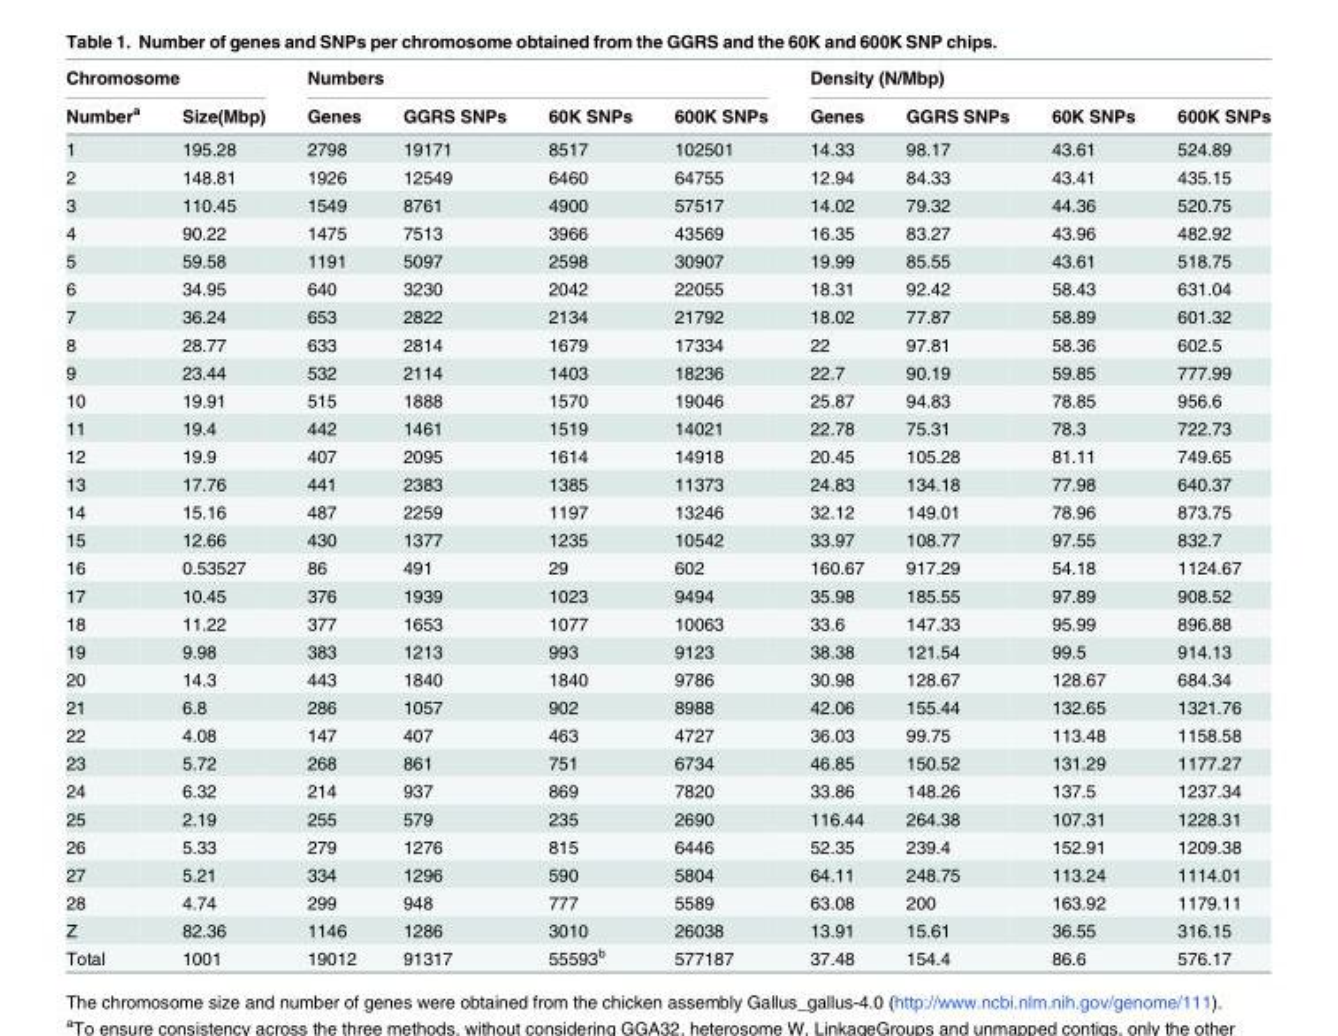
<table><thead><tr><td colspan="2">Chromosome</td><td colspan="4">Numbers</td><td colspan="4">Density (N/Mbp)</td></tr><tr><td>Number<sup>a</sup></td><td>Size(Mbp)</td><td>Genes</td><td>GGRS SNPs</td><td>60K SNPs</td><td>600K SNPs</td><td>Genes</td><td>GGRS SNPs</td><td>60K SNPs</td><td>600K SNPs</td></tr></thead><tbody><tr><td>1</td><td>195.28</td><td>2798</td><td>19171</td><td>8517</td><td>102501</td><td>14.33</td><td>98.17</td><td>43.61</td><td>524.89</td></tr><tr><td>2</td><td>148.81</td><td>1926</td><td>12549</td><td>6460</td><td>64755</td><td>12.94</td><td>84.33</td><td>43.41</td><td>435.15</td></tr><tr><td>3</td><td>110.45</td><td>1549</td><td>8761</td><td>4900</td><td>57517</td><td>14.02</td><td>79.32</td><td>44.36</td><td>520.75</td></tr><tr><td>4</td><td>90.22</td><td>1475</td><td>7513</td><td>3966</td><td>43569</td><td>16.35</td><td>83.27</td><td>43.96</td><td>482.92</td></tr><tr><td>5</td><td>59.58</td><td>1191</td><td>5097</td><td>2598</td><td>30907</td><td>19.99</td><td>85.55</td><td>43.61</td><td>518.75</td></tr><tr><td>6</td><td>34.95</td><td>640</td><td>3230</td><td>2042</td><td>22055</td><td>18.31</td><td>92.42</td><td>58.43</td><td>631.04</td></tr><tr><td>7</td><td>36.24</td><td>653</td><td>2822</td><td>2134</td><td>21792</td><td>18.02</td><td>77.87</td><td>58.89</td><td>601.32</td></tr><tr><td>8</td><td>28.77</td><td>633</td><td>2814</td><td>1679</td><td>17334</td><td>22</td><td>97.81</td><td>58.36</td><td>602.5</td></tr><tr><td>9</td><td>23.44</td><td>532</td><td>2114</td><td>1403</td><td>18236</td><td>22.7</td><td>90.19</td><td>59.85</td><td>777.99</td></tr><tr><td>10</td><td>19.91</td><td>515</td><td>1888</td><td>1570</td><td>19046</td><td>25.87</td><td>94.83</td><td>78.85</td><td>956.6</td></tr><tr><td>11</td><td>19.4</td><td>442</td><td>1461</td><td>1519</td><td>14021</td><td>22.78</td><td>75.31</td><td>78.3</td><td>722.73</td></tr><tr><td>12</td><td>19.9</td><td>407</td><td>2095</td><td>1614</td><td>14918</td><td>20.45</td><td>105.28</td><td>81.11</td><td>749.65</td></tr><tr><td>13</td><td>17.76</td><td>441</td><td>2383</td><td>1385</td><td>11373</td><td>24.83</td><td>134.18</td><td>77.98</td><td>640.37</td></tr><tr><td>14</td><td>15.16</td><td>487</td><td>2259</td><td>1197</td><td>13246</td><td>32.12</td><td>149.01</td><td>78.96</td><td>873.75</td></tr><tr><td>15</td><td>12.66</td><td>430</td><td>1377</td><td>1235</td><td>10542</td><td>33.97</td><td>108.77</td><td>97.55</td><td>832.7</td></tr><tr><td>16</td><td>0.53527</td><td>86</td><td>491</td><td>29</td><td>602</td><td>160.67</td><td>917.29</td><td>54.18</td><td>1124.67</td></tr><tr><td>17</td><td>10.45</td><td>376</td><td>1939</td><td>1023</td><td>9494</td><td>35.98</td><td>185.55</td><td>97.89</td><td>908.52</td></tr><tr><td>18</td><td>11.22</td><td>377</td><td>1653</td><td>1077</td><td>10063</td><td>33.6</td><td>147.33</td><td>95.99</td><td>896.88</td></tr><tr><td>19</td><td>9.98</td><td>383</td><td>1213</td><td>993</td><td>9123</td><td>38.38</td><td>121.54</td><td>99.5</td><td>914.13</td></tr><tr><td>20</td><td>14.3</td><td>443</td><td>1840</td><td>1840</td><td>9786</td><td>30.98</td><td>128.67</td><td>128.67</td><td>684.34</td></tr><tr><td>21</td><td>6.8</td><td>286</td><td>1057</td><td>902</td><td>8988</td><td>42.06</td><td>155.44</td><td>132.65</td><td>1321.76</td></tr><tr><td>22</td><td>4.08</td><td>147</td><td>407</td><td>463</td><td>4727</td><td>36.03</td><td>99.75</td><td>113.48</td><td>1158.58</td></tr><tr><td>23</td><td>5.72</td><td>268</td><td>861</td><td>751</td><td>6734</td><td>46.85</td><td>150.52</td><td>131.29</td><td>1177.27</td></tr><tr><td>24</td><td>6.32</td><td>214</td><td>937</td><td>869</td><td>7820</td><td>33.86</td><td>148.26</td><td>137.5</td><td>1237.34</td></tr><tr><td>25</td><td>2.19</td><td>255</td><td>579</td><td>235</td><td>2690</td><td>116.44</td><td>264.38</td><td>107.31</td><td>1228.31</td></tr><tr><td>26</td><td>5.33</td><td>279</td><td>1276</td><td>815</td><td>6446</td><td>52.35</td><td>239.4</td><td>152.91</td><td>1209.38</td></tr><tr><td>27</td><td>5.21</td><td>334</td><td>1296</td><td>590</td><td>5804</td><td>64.11</td><td>248.75</td><td>113.24</td><td>1114.01</td></tr><tr><td>28</td><td>4.74</td><td>299</td><td>948</td><td>777</td><td>5589</td><td>63.08</td><td>200</td><td>163.92</td><td>1179.11</td></tr><tr><td>Z</td><td>82.36</td><td>1146</td><td>1286</td><td>3010</td><td>26038</td><td>13.91</td><td>15.61</td><td>36.55</td><td>316.15</td></tr><tr><td>Total</td><td>1001</td><td>19012</td><td>91317</td><td>55593<sup>b</sup></td><td>577187</td><td>37.48</td><td>154.4</td><td>86.6</td><td>576.17</td></tr></tbody></table>